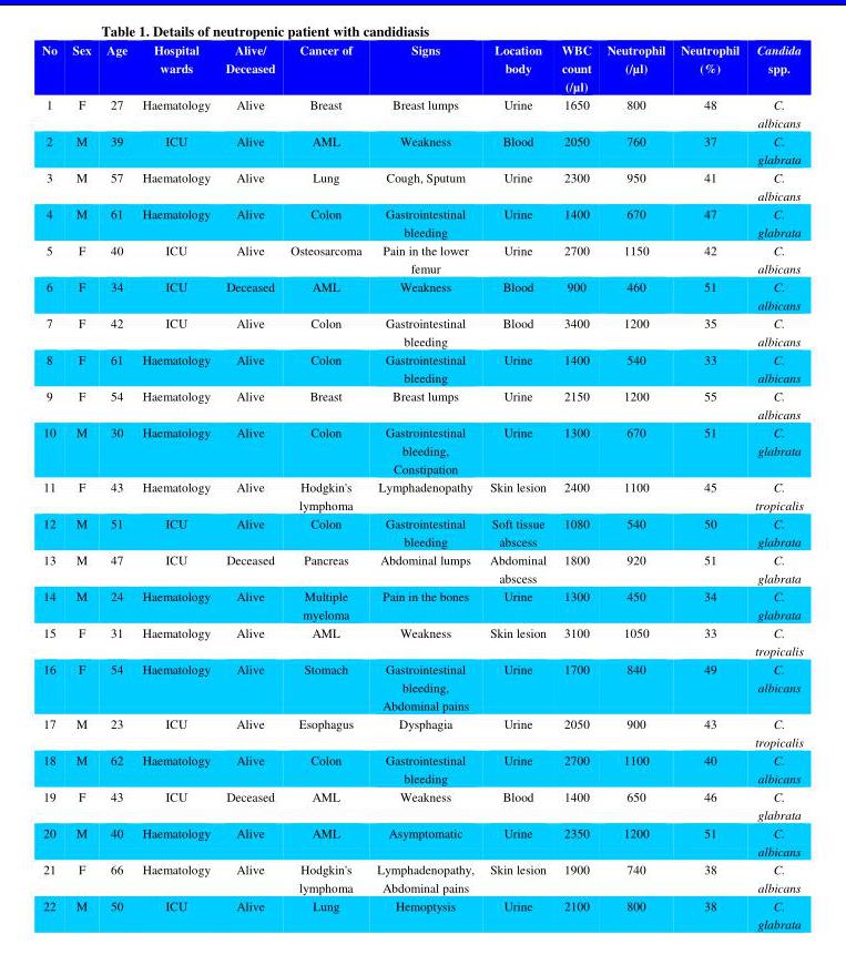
<table><thead><tr><td>No</td><td>Sex</td><td>Age</td><td>Hospital wards</td><td>Alive/ Deceased</td><td>Cancer of</td><td>Signs</td><td>Location body</td><td>WBC count (/µl)</td><td>Neutrophil (/µl)</td><td>Neutrophil (%)</td><td>Candida spp.</td></tr></thead><tbody><tr><td>1</td><td>F</td><td>27</td><td>Haematology</td><td>Alive</td><td>Breast</td><td>Breast lumps</td><td>Urine</td><td>1650</td><td>800</td><td>48</td><td>C. albicans</td></tr><tr><td>2</td><td>M</td><td>39</td><td>ICU</td><td>Alive</td><td>AML</td><td>Weakness</td><td>Blood</td><td>2050</td><td>760</td><td>37</td><td>C. glabrata</td></tr><tr><td>3</td><td>M</td><td>57</td><td>Haematology</td><td>Alive</td><td>Lung</td><td>Cough, Sputum</td><td>Urine</td><td>2300</td><td>950</td><td>41</td><td>C. albicans</td></tr><tr><td>4</td><td>M</td><td>61</td><td>Haematology</td><td>Alive</td><td>Colon</td><td>Gastrointestinal bleeding</td><td>Urine</td><td>1400</td><td>670</td><td>47</td><td>C. glabrata</td></tr><tr><td>5</td><td>F</td><td>40</td><td>ICU</td><td>Alive</td><td>Osteosarcoma</td><td>Pain in the lower femur</td><td>Urine</td><td>2700</td><td>1150</td><td>42</td><td>C. albicans</td></tr><tr><td>6</td><td>F</td><td>34</td><td>ICU</td><td>Deceased</td><td>AML</td><td>Weakness</td><td>Blood</td><td>900</td><td>460</td><td>51</td><td>C. albicans</td></tr><tr><td>7</td><td>F</td><td>42</td><td>ICU</td><td>Alive</td><td>Colon</td><td>Gastrointestinal bleeding</td><td>Blood</td><td>3400</td><td>1200</td><td>35</td><td>C. albicans</td></tr><tr><td>8</td><td>F</td><td>61</td><td>Haematology</td><td>Alive</td><td>Colon</td><td>Gastrointestinal bleeding</td><td>Urine</td><td>1400</td><td>540</td><td>33</td><td>C. albicans</td></tr><tr><td>9</td><td>F</td><td>54</td><td>Haematology</td><td>Alive</td><td>Breast</td><td>Breast lumps</td><td>Urine</td><td>2150</td><td>1200</td><td>55</td><td>C. albicans</td></tr><tr><td>10</td><td>M</td><td>30</td><td>Haematology</td><td>Alive</td><td>Colon</td><td>Gastrointestinal bleeding, Constipation</td><td>Urine</td><td>1300</td><td>670</td><td>51</td><td>C. glabrata</td></tr><tr><td>11</td><td>F</td><td>43</td><td>Haematology</td><td>Alive</td><td>Hodgkin&#x27;s lymphoma</td><td>Lymphadenopathy</td><td>Skin lesion</td><td>2400</td><td>1100</td><td>45</td><td>C. tropicalis</td></tr><tr><td>12</td><td>M</td><td>51</td><td>ICU</td><td>Alive</td><td>Colon</td><td>Gastrointestinal bleeding</td><td>Soft tissue abscess</td><td>1080</td><td>540</td><td>50</td><td>C. glabrata</td></tr><tr><td>13</td><td>M</td><td>47</td><td>ICU</td><td>Deceased</td><td>Pancreas</td><td>Abdominal lumps</td><td>Abdominal abscess</td><td>1800</td><td>920</td><td>51</td><td>C. glabrata</td></tr><tr><td>14</td><td>M</td><td>24</td><td>Haematology</td><td>Alive</td><td>Multiple myeloma</td><td>Pain in the bones</td><td>Urine</td><td>1300</td><td>450</td><td>34</td><td>C. glabrata</td></tr><tr><td>15</td><td>F</td><td>31</td><td>Haematology</td><td>Alive</td><td>AML</td><td>Weakness</td><td>Skin lesion</td><td>3100</td><td>1050</td><td>33</td><td>C. tropicalis</td></tr><tr><td>16</td><td>F</td><td>54</td><td>Haematology</td><td>Alive</td><td>Stomach</td><td>Gastrointestinal bleeding, Abdominal pains</td><td>Urine</td><td>1700</td><td>840</td><td>49</td><td>C. albicans</td></tr><tr><td>17</td><td>M</td><td>23</td><td>ICU</td><td>Alive</td><td>Esophagus</td><td>Dysphagia</td><td>Urine</td><td>2050</td><td>900</td><td>43</td><td>C. tropicalis</td></tr><tr><td>18</td><td>M</td><td>62</td><td>Haematology</td><td>Alive</td><td>Colon</td><td>Gastrointestinal bleeding</td><td>Urine</td><td>2700</td><td>1100</td><td>40</td><td>C. albicans</td></tr><tr><td>19</td><td>F</td><td>43</td><td>ICU</td><td>Deceased</td><td>AML</td><td>Weakness</td><td>Blood</td><td>1400</td><td>650</td><td>46</td><td>C. glabrata</td></tr><tr><td>20</td><td>M</td><td>40</td><td>Haematology</td><td>Alive</td><td>AML</td><td>Asymptomatic</td><td>Urine</td><td>2350</td><td>1200</td><td>51</td><td>C. albicans</td></tr><tr><td>21</td><td>F</td><td>66</td><td>Haematology</td><td>Alive</td><td>Hodgkin&#x27;s lymphoma</td><td>Lymphadenopathy, Abdominal pains</td><td>Skin lesion</td><td>1900</td><td>740</td><td>38</td><td>C. albicans</td></tr><tr><td>22</td><td>M</td><td>50</td><td>ICU</td><td>Alive</td><td>Lung</td><td>Hemoptysis</td><td>Urine</td><td>2100</td><td>800</td><td>38</td><td>C. glabrata</td></tr></tbody></table>